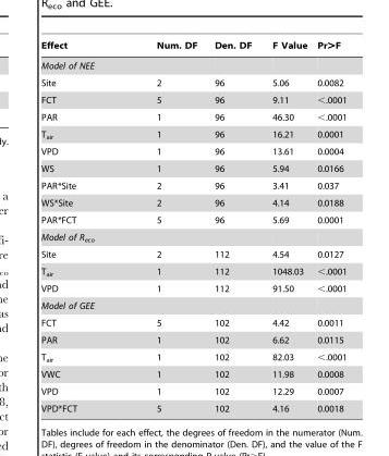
<table><thead><tr><td>Effect</td><td>Num. DF</td><td>Den. DF</td><td>F Value</td><td>Pr&gt;F</td></tr></thead><tbody><tr><td colspan="5">Model of NEE</td></tr><tr><td>Site</td><td>2</td><td>96</td><td>5.06</td><td>0.0082</td></tr><tr><td>FCT</td><td>5</td><td>96</td><td>9.11</td><td>&lt;.0001</td></tr><tr><td>PAR</td><td>1</td><td>96</td><td>46.30</td><td>&lt;.0001</td></tr><tr><td>T<sub>air</sub></td><td>1</td><td>96</td><td>16.21</td><td>0.0001</td></tr><tr><td>VPD</td><td>1</td><td>96</td><td>13.61</td><td>0.0004</td></tr><tr><td>WS</td><td>1</td><td>96</td><td>5.94</td><td>0.0166</td></tr><tr><td>PAR*Site</td><td>2</td><td>96</td><td>3.41</td><td>0.037</td></tr><tr><td>WS*Site</td><td>2</td><td>96</td><td>4.14</td><td>0.0188</td></tr><tr><td>PAR*FCT</td><td>5</td><td>96</td><td>5.69</td><td>0.0001</td></tr><tr><td colspan="5">Model of R<sub>eco</sub></td></tr><tr><td>Site</td><td>2</td><td>112</td><td>4.54</td><td>0.0127</td></tr><tr><td>T<sub>air</sub></td><td>1</td><td>112</td><td>1048.03</td><td>&lt;.0001</td></tr><tr><td>VPD</td><td>1</td><td>112</td><td>91.50</td><td>&lt;.0001</td></tr><tr><td colspan="5">Model of GEE</td></tr><tr><td>FCT</td><td>5</td><td>102</td><td>4.42</td><td>0.0011</td></tr><tr><td>PAR</td><td>1</td><td>102</td><td>6.62</td><td>0.0115</td></tr><tr><td>T<sub>air</sub></td><td>1</td><td>102</td><td>82.03</td><td>&lt;.0001</td></tr><tr><td>VWC</td><td>1</td><td>102</td><td>11.98</td><td>0.0008</td></tr><tr><td>VPD</td><td>1</td><td>102</td><td>12.29</td><td>0.0007</td></tr><tr><td>VPD*FCT</td><td>5</td><td>102</td><td>4.16</td><td>0.0018</td></tr></tbody></table>